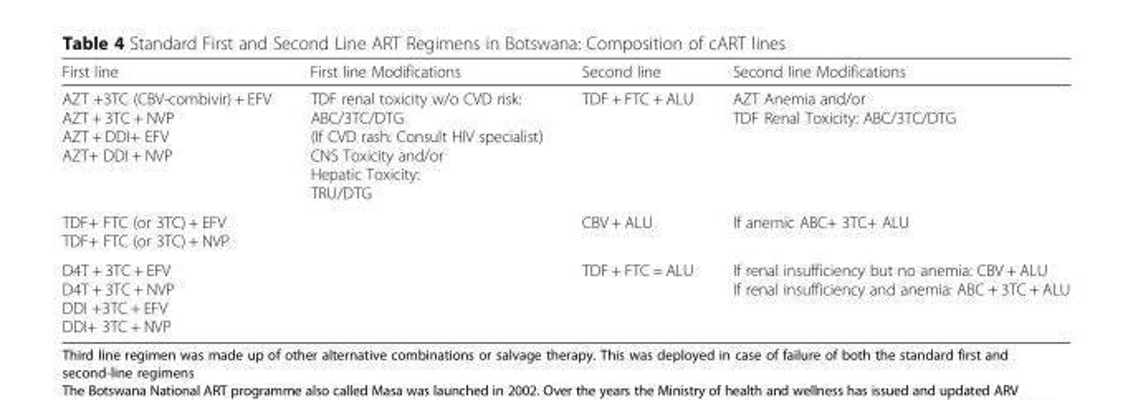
<table><thead><tr><td>First line</td><td>First line Modifications</td><td>Second line</td><td>Second line Modifications</td></tr></thead><tbody><tr><td>AZT +3TC (CBV-combivir) + EFV AZT + 3TC + NVP AZT + DDI+ EFV AZT+ DDI + NVP</td><td>TDF renal toxicity w/o CVD risk: ABC/3TC/DTG (If CVD rash: Consult HIV specialist) CNS Toxicity and/or Hepatic Toxicity: TRU/DTG</td><td>TDF + FTC + ALU</td><td>AZT Anemia and/or TDF Renal Toxicity: ABC/3TC/DTG</td></tr><tr><td>TDF+ FTC (or 3TC) + EFV TDF+ FTC (or 3TC) + NVP</td><td></td><td>CBV + ALU</td><td>If anemic ABC+ 3TC+ ALU</td></tr><tr><td>D4T + 3TC + EFV D4T + 3TC + NVP DDI +3TC + EFV DDI+ 3TC + NVP</td><td></td><td>TDF + FTC = ALU</td><td>If renal insufficiency but no anemia: CBV + ALU If renal insufficiency and anemia: ABC + 3TC + ALU</td></tr></tbody></table>